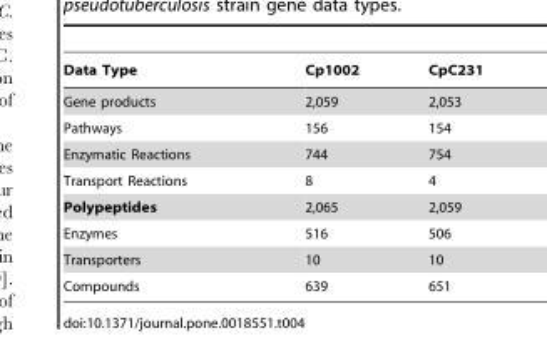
<table><thead><tr><td>Data Type</td><td>Cp1002</td><td>CpC231</td></tr></thead><tbody><tr><td>Gene products</td><td>2,059</td><td>2,053</td></tr><tr><td>Pathways</td><td>156</td><td>154</td></tr><tr><td>Enzymatic Reactions</td><td>744</td><td>754</td></tr><tr><td>Transport Reactions</td><td>8</td><td>4</td></tr><tr><td>Polypeptides</td><td>2,065</td><td>2,059</td></tr><tr><td>Enzymes</td><td>516</td><td>506</td></tr><tr><td>Transporters</td><td>10</td><td>10</td></tr><tr><td>Compounds</td><td>639</td><td>651</td></tr></tbody></table>